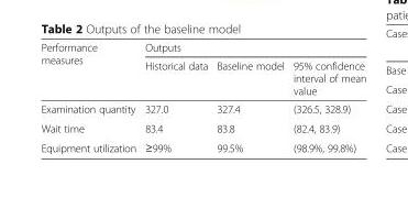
<table><thead><tr><td rowspan="2">Performance measures</td><td colspan="3">Outputs</td></tr><tr><td>Historical data</td><td>Baseline model</td><td>95% confidence interval of mean value</td></tr></thead><tbody><tr><td>Examination quantity</td><td>327.0</td><td>327.4</td><td>(326.5, 328.9)</td></tr><tr><td>Wait time</td><td>83.4</td><td>83.8</td><td>(82.4, 83.9)</td></tr><tr><td>Equipment utilization</td><td>≥99%</td><td>99.5%</td><td>(98.9%, 99.8%)</td></tr></tbody></table>